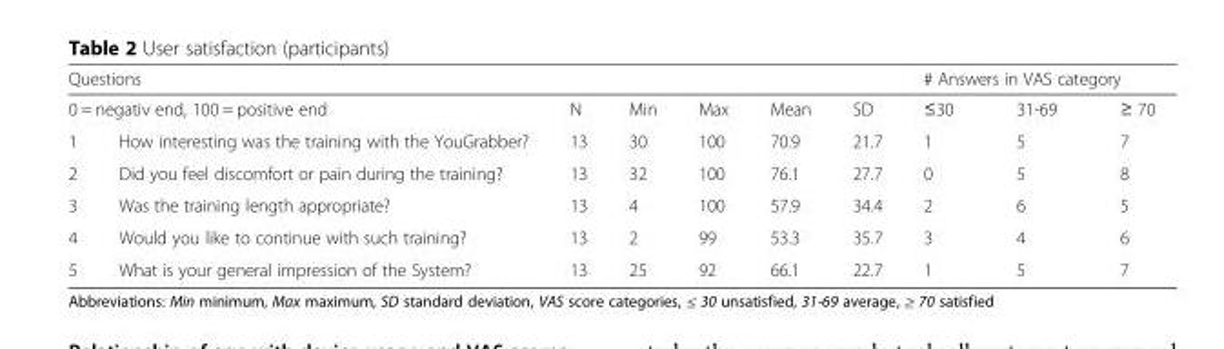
<table><thead><tr><td rowspan="2" colspan="2">Questions 0 = negativ end, 100 = positive end</td><td rowspan="3">N 13</td><td rowspan="3">Min 30</td><td rowspan="3">Max 100</td><td rowspan="3">Mean 70.9</td><td rowspan="3">SD 21.7</td><td colspan="3"># Answers in VAS category</td></tr><tr><td rowspan="2">≤30 1</td><td rowspan="2">31-69 5</td><td rowspan="2">≥ 70 7</td></tr><tr><td>1</td><td>How interesting was the training with the YouGrabber?</td></tr></thead><tbody><tr><td>2</td><td>Did you feel discomfort or pain during the training?</td><td>13</td><td>32</td><td>100</td><td>76.1</td><td>27.7</td><td>0</td><td>5</td><td>8</td></tr><tr><td>3</td><td>Was the training length appropriate?</td><td>13</td><td>4</td><td>100</td><td>57.9</td><td>34.4</td><td>2</td><td>6</td><td>5</td></tr><tr><td>4</td><td>Would you like to continue with such training?</td><td>13</td><td>2</td><td>99</td><td>53.3</td><td>35.7</td><td>3</td><td>4</td><td>6</td></tr><tr><td>5</td><td>What is your general impression of the System?</td><td>13</td><td>25</td><td>92</td><td>66.1</td><td>22.7</td><td>1</td><td>5</td><td>7</td></tr></tbody></table>